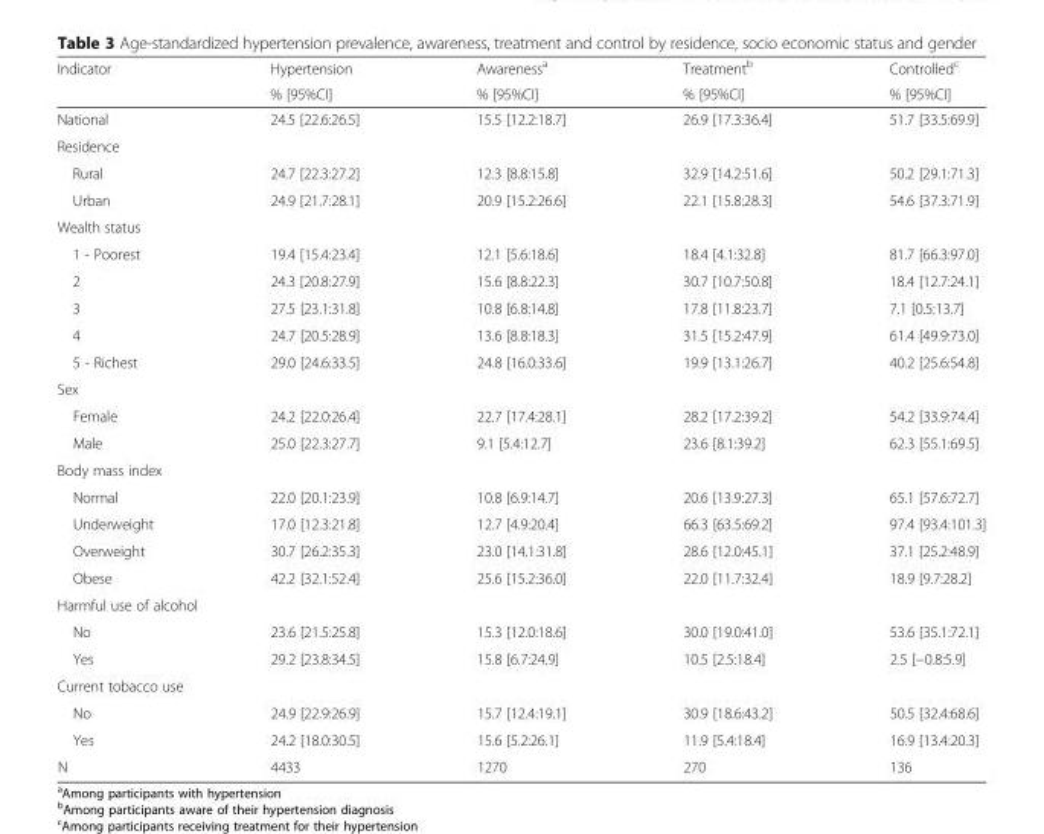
<table><thead><tr><td rowspan="2">Indicator</td><td rowspan="2">Hypertension % [95%CI]</td><td rowspan="2">Awareness<sup>a</sup> % [95%CI]</td><td rowspan="2">Treatment<sup>b</sup> % [95%CI]</td><td rowspan="2">Controlled<sup>c</sup> % [95%CI]</td></tr><tr></tr></thead><tbody><tr><td>National</td><td>24.5 [22.6:26.5]</td><td>15.5 [12.2:18.7]</td><td>26.9 [17.3:36.4]</td><td>51.7 [33.5:69.9]</td></tr><tr><td colspan="5">Residence</td></tr><tr><td>Rural</td><td>24.7 [22.3:27.2]</td><td>12.3 [8.8:15.8]</td><td>32.9 [14.2:51.6]</td><td>50.2 [29.1:71.3]</td></tr><tr><td>Urban</td><td>24.9 [21.7:28.1]</td><td>20.9 [15.2:26.6]</td><td>22.1 [15.8:28.3]</td><td>54.6 [37.3:71.9]</td></tr><tr><td colspan="5">Wealth status</td></tr><tr><td>1 - Poorest</td><td>19.4 [15.4:23.4]</td><td>12.1 [5.6:18.6]</td><td>18.4 [4.1:32.8]</td><td>81.7 [66.3:97.0]</td></tr><tr><td>2</td><td>24.3 [20.8:27.9]</td><td>15.6 [8.8:22.3]</td><td>30.7 [10.7:50.8]</td><td>18.4 [12.7:24.1]</td></tr><tr><td>3</td><td>27.5 [23.1:31.8]</td><td>10.8 [6.8:14.8]</td><td>17.8 [11.8:23.7]</td><td>7.1 [0.5:13.7]</td></tr><tr><td>4</td><td>24.7 [20.5:28.9]</td><td>13.6 [8.8:18.3]</td><td>31.5 [15.2:47.9]</td><td>61.4 [49.9:73.0]</td></tr><tr><td>5 - Richest</td><td>29.0 [24.6:33.5]</td><td>24.8 [16.0:33.6]</td><td>19.9 [13.1:26.7]</td><td>40.2 [25.6:54.8]</td></tr><tr><td colspan="5">Sex</td></tr><tr><td>Female</td><td>24.2 [22.0:26.4]</td><td>22.7 [17.4:28.1]</td><td>28.2 [17.2:39.2]</td><td>54.2 [33.9:74.4]</td></tr><tr><td>Male</td><td>25.0 [22.3:27.7]</td><td>9.1 [5.4:12.7]</td><td>23.6 [8.1:39.2]</td><td>62.3 [55.1:69.5]</td></tr><tr><td colspan="5">Body mass index</td></tr><tr><td>Normal</td><td>22.0 [20.1:23.9]</td><td>10.8 [6.9:14.7]</td><td>20.6 [13.9:27.3]</td><td>65.1 [57.6:72.7]</td></tr><tr><td>Underweight</td><td>17.0 [12.3:21.8]</td><td>12.7 [4.9:20.4]</td><td>66.3 [63.5:69.2]</td><td>97.4 [93.4:101.3]</td></tr><tr><td>Overweight</td><td>30.7 [26.2:35.3]</td><td>23.0 [14.1:31.8]</td><td>28.6 [12.0:45.1]</td><td>37.1 [25.2:48.9]</td></tr><tr><td>Obese</td><td>42.2 [32.1:52.4]</td><td>25.6 [15.2:36.0]</td><td>22.0 [11.7:32.4]</td><td>18.9 [9.7:28.2]</td></tr><tr><td colspan="5">Harmful use of alcohol</td></tr><tr><td>No</td><td>23.6 [21.5:25.8]</td><td>15.3 [12.0:18.6]</td><td>30.0 [19.0:41.0]</td><td>53.6 [35.1:72.1]</td></tr><tr><td>Yes</td><td>29.2 [23.8:34.5]</td><td>15.8 [6.7:24.9]</td><td>10.5 [2.5:18.4]</td><td>2.5 [−0.8:5.9]</td></tr><tr><td colspan="5">Current tobacco use</td></tr><tr><td>No</td><td>24.9 [22.9:26.9]</td><td>15.7 [12.4:19.1]</td><td>30.9 [18.6:43.2]</td><td>50.5 [32.4:68.6]</td></tr><tr><td>Yes</td><td>24.2 [18.0:30.5]</td><td>15.6 [5.2:26.1]</td><td>11.9 [5.4:18.4]</td><td>16.9 [13.4:20.3]</td></tr><tr><td>N</td><td>4433</td><td>1270</td><td>270</td><td>136</td></tr></tbody></table>